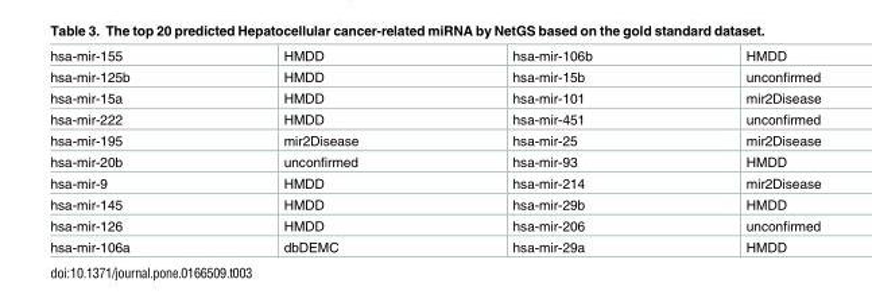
<table><tbody><tr><td>hsa-mir-155</td><td>HMDD</td><td>hsa-mir-106b</td><td>HMDD</td></tr><tr><td>hsa-mir-125b</td><td>HMDD</td><td>hsa-mir-15b</td><td>unconfirmed</td></tr><tr><td>hsa-mir-15a</td><td>HMDD</td><td>hsa-mir-101</td><td>mir2Disease</td></tr><tr><td>hsa-mir-222</td><td>HMDD</td><td>hsa-mir-451</td><td>unconfirmed</td></tr><tr><td>hsa-mir-195</td><td>mir2Disease</td><td>hsa-mir-25</td><td>mir2Disease</td></tr><tr><td>hsa-mir-20b</td><td>unconfirmed</td><td>hsa-mir-93</td><td>HMDD</td></tr><tr><td>hsa-mir-9</td><td>HMDD</td><td>hsa-mir-214</td><td>mir2Disease</td></tr><tr><td>hsa-mir-145</td><td>HMDD</td><td>hsa-mir-29b</td><td>HMDD</td></tr><tr><td>hsa-mir-126</td><td>HMDD</td><td>hsa-mir-206</td><td>unconfirmed</td></tr><tr><td>hsa-mir-106a</td><td>dbDEMC</td><td>hsa-mir-29a</td><td>HMDD</td></tr></tbody></table>